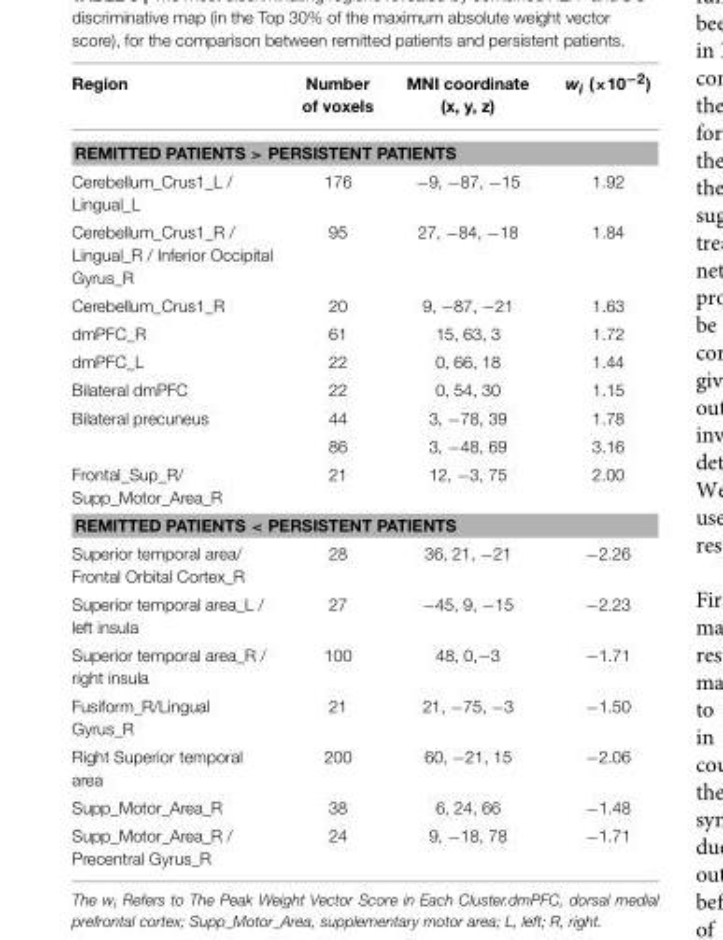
<table><thead><tr><td>Region</td><td>Number of voxels</td><td>MNI coordinate (x, y, z)</td><td>wi (×10−2)</td></tr></thead><tbody><tr><td colspan="4">REMITTED PATIENTS &gt; PERSISTENT PATIENTS</td></tr><tr><td>Cerebellum_Crus1_L / Lingual_L</td><td>176</td><td>−9, −87, −15</td><td>1.92</td></tr><tr><td>Cerebellum_Crus1_R / Lingual_R / Inferior Occipital Gyrus_R</td><td>95</td><td>27, −84, −18</td><td>1.84</td></tr><tr><td>Cerebellum_Crus1_R</td><td>20</td><td>9, −87, −21</td><td>1.63</td></tr><tr><td>dmPFC_R</td><td>61</td><td>15, 63, 3</td><td>1.72</td></tr><tr><td>dmPFC_L</td><td>22</td><td>0, 66, 18</td><td>1.44</td></tr><tr><td>Bilateral dmPFC</td><td>22</td><td>0, 54, 30</td><td>1.15</td></tr><tr><td rowspan="2">Bilateral precuneus</td><td>44</td><td>3, −78, 39</td><td>1.78</td></tr><tr><td>86</td><td>3, −48, 69</td><td>3.16</td></tr><tr><td>Frontal_Sup_R/ Supp_Motor_Area_R</td><td>21</td><td>12, −3, 75</td><td>2.00</td></tr><tr><td colspan="4">REMITTED PATIENTS &lt; PERSISTENT PATIENTS</td></tr><tr><td>Superior temporal area/ Frontal Orbital Cortex_R</td><td>28</td><td>36, 21, −21</td><td>−2.26</td></tr><tr><td>Superior temporal area_L / left insula</td><td>27</td><td>−45, 9, −15</td><td>−2.23</td></tr><tr><td>Superior temporal area_R / right insula</td><td>100</td><td>48, 0,−3</td><td>−1.71</td></tr><tr><td>Fusiform_R/Lingual Gyrus_R</td><td>21</td><td>21, −75, −3</td><td>−1.50</td></tr><tr><td>Right Superior temporal area</td><td>200</td><td>60, −21, 15</td><td>−2.06</td></tr><tr><td>Supp_Motor_Area_R</td><td>38</td><td>6, 24, 66</td><td>−1.48</td></tr><tr><td>Supp_Motor_Area_R / Precentral Gyrus_R</td><td>24</td><td>9, −18, 78</td><td>−1.71</td></tr></tbody></table>